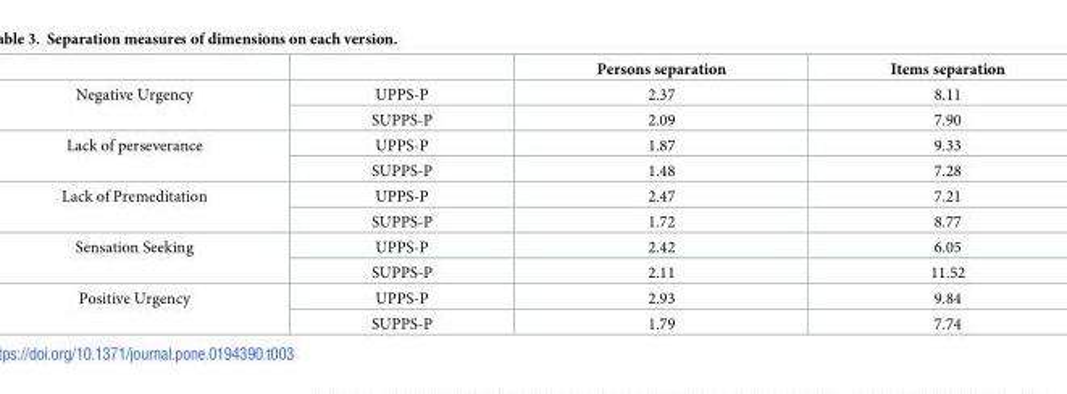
<table><thead><tr><td></td><td></td><td>Persons separation</td><td>Items separation</td></tr></thead><tbody><tr><td rowspan="2">Negative Urgency</td><td>UPPS-P</td><td>2.37</td><td>8.11</td></tr><tr><td>SUPPS-P</td><td>2.09</td><td>7.90</td></tr><tr><td rowspan="2">Lack of perseverance</td><td>UPPS-P</td><td>1.87</td><td>9.33</td></tr><tr><td>SUPPS-P</td><td>1.48</td><td>7.28</td></tr><tr><td rowspan="2">Lack of Premeditation</td><td>UPPS-P</td><td>2.47</td><td>7.21</td></tr><tr><td>SUPPS-P</td><td>1.72</td><td>8.77</td></tr><tr><td rowspan="2">Sensation Seeking</td><td>UPPS-P</td><td>2.42</td><td>6.05</td></tr><tr><td>SUPPS-P</td><td>2.11</td><td>11.52</td></tr><tr><td rowspan="2">Positive Urgency</td><td>UPPS-P</td><td>2.93</td><td>9.84</td></tr><tr><td>SUPPS-P</td><td>1.79</td><td>7.74</td></tr></tbody></table>